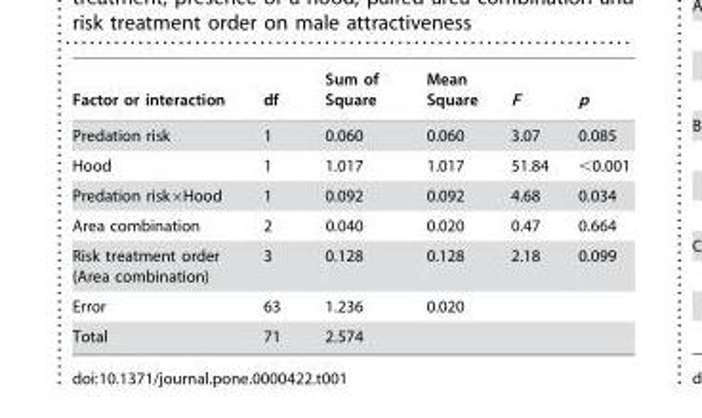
<table><thead><tr><td>Factor or interaction</td><td>df</td><td>Sum of Square</td><td>Mean Square</td><td>F</td><td>p</td></tr></thead><tbody><tr><td>Predation risk</td><td>1</td><td>0.060</td><td>0.060</td><td>3.07</td><td>0.085</td></tr><tr><td>Hood</td><td>1</td><td>1.017</td><td>1.017</td><td>51.84</td><td>&lt;0.001</td></tr><tr><td>Predation risk×Hood</td><td>1</td><td>0.092</td><td>0.092</td><td>4.68</td><td>0.034</td></tr><tr><td>Area combination</td><td>2</td><td>0.040</td><td>0.020</td><td>0.47</td><td>0.664</td></tr><tr><td>Risk treatment order (Area combination)</td><td>3</td><td>0.128</td><td>0.128</td><td>2.18</td><td>0.099</td></tr><tr><td>Error</td><td>63</td><td>1.236</td><td>0.020</td><td></td><td></td></tr><tr><td>Total</td><td>71</td><td>2.574</td><td></td><td></td><td></td></tr></tbody></table>